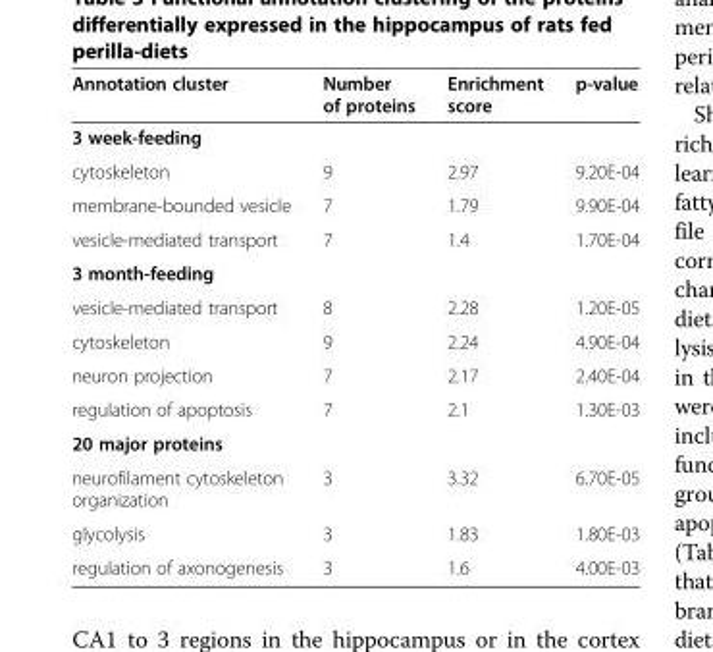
<table><thead><tr><td>Annotation cluster</td><td>Number of proteins</td><td>Enrichment score</td><td>p-value</td></tr></thead><tbody><tr><td colspan="4">3 week-feeding</td></tr><tr><td>cytoskeleton</td><td>9</td><td>2.97</td><td>9.20E-04</td></tr><tr><td>membrane-bounded vesicle</td><td>7</td><td>1.79</td><td>9.90E-04</td></tr><tr><td>vesicle-mediated transport</td><td>7</td><td>1.4</td><td>1.70E-04</td></tr><tr><td colspan="4">3 month-feeding</td></tr><tr><td>vesicle-mediated transport</td><td>8</td><td>2.28</td><td>1.20E-05</td></tr><tr><td>cytoskeleton</td><td>9</td><td>2.24</td><td>4.90E-04</td></tr><tr><td>neuron projection</td><td>7</td><td>2.17</td><td>2.40E-04</td></tr><tr><td>regulation of apoptosis</td><td>7</td><td>2.1</td><td>1.30E-03</td></tr><tr><td colspan="4">20 major proteins</td></tr><tr><td>neurofilament cytoskeleton organization</td><td>3</td><td>3.32</td><td>6.70E-05</td></tr><tr><td>glycolysis</td><td>3</td><td>1.83</td><td>1.80E-03</td></tr><tr><td>regulation of axonogenesis</td><td>3</td><td>1.6</td><td>4.00E-03</td></tr></tbody></table>